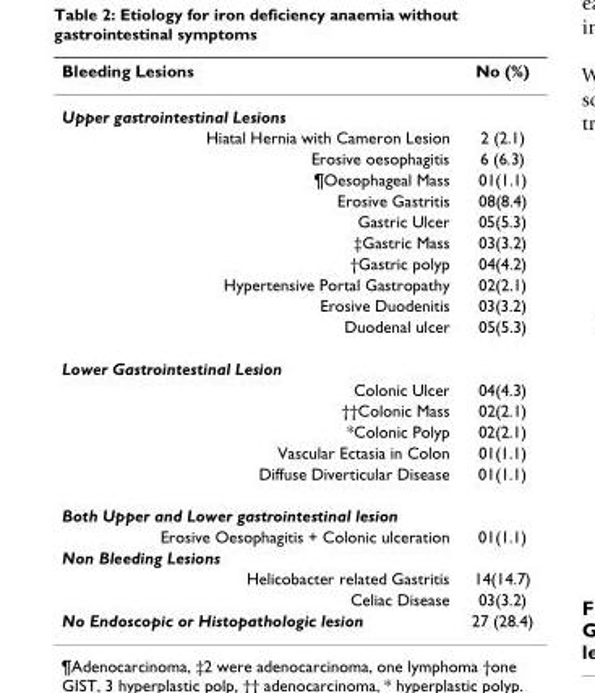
<table><thead><tr><td>Bleeding Lesions</td><td>No (%)</td></tr></thead><tbody><tr><td colspan="2">Upper gastrointestinal Lesions</td></tr><tr><td>Hiatal Hernia with Cameron Lesion</td><td>2 (2.1)</td></tr><tr><td>Erosive oesophagitis</td><td>6 (6.3)</td></tr><tr><td>¶Oesophageal Mass</td><td>01(1.1)</td></tr><tr><td>Erosive Gastritis</td><td>08(8.4)</td></tr><tr><td>Gastric Ulcer</td><td>05(5.3)</td></tr><tr><td>‡Gastric Mass</td><td>03(3.2)</td></tr><tr><td>†Gastric polyp</td><td>04(4.2)</td></tr><tr><td>Hypertensive Portal Gastropathy</td><td>02(2.1)</td></tr><tr><td>Erosive Duodenitis</td><td>03(3.2)</td></tr><tr><td>Duodenal ulcer</td><td>05(5.3)</td></tr><tr><td colspan="2">Lower Gastrointestinal Lesion</td></tr><tr><td>Colonic Ulcer</td><td>04(4.3)</td></tr><tr><td>††Colonic Mass</td><td>02(2.1)</td></tr><tr><td>*Colonic Polyp</td><td>02(2.1)</td></tr><tr><td>Vascular Ectasia in Colon</td><td>01(1.1)</td></tr><tr><td>Diffuse Diverticular Disease</td><td>01(1.1)</td></tr><tr><td colspan="2">Both Upper and Lower gastrointestinal lesion</td></tr><tr><td>Erosive Oesophagitis + Colonic ulceration</td><td>01(1.1)</td></tr><tr><td colspan="2">Non Bleeding Lesions</td></tr><tr><td>Helicobacter related Gastritis</td><td>14(14.7)</td></tr><tr><td>Celiac Disease</td><td>03(3.2)</td></tr><tr><td>No Endoscopic or Histopathologic lesion</td><td>27 (28.4)</td></tr></tbody></table>